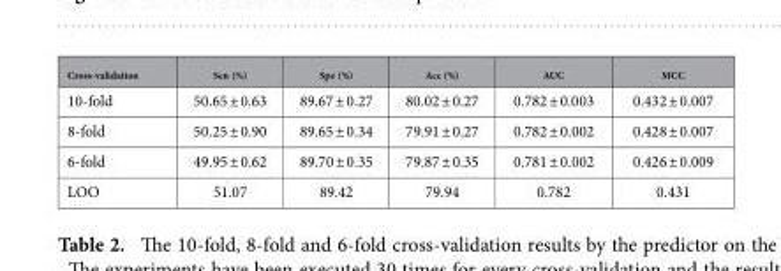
<table><thead><tr><td><sub>Cross-validation</sub></td><td><sub>Sen (%)</sub></td><td><sub>Spe (%)</sub></td><td><sub>Acc (%)</sub></td><td><sub>AUC</sub></td><td><sub>MCC</sub></td></tr></thead><tbody><tr><td>10-fold</td><td>50.65 ± 0.63</td><td>89.67 ± 0.27</td><td>80.02 ± 0.27</td><td>0.782 ± 0.003</td><td>0.432 ± 0.007</td></tr><tr><td>8-fold</td><td>50.25 ± 0.90</td><td>89.65 ± 0.34</td><td>79.91 ± 0.27</td><td>0.782 ± 0.002</td><td>0.428 ± 0.007</td></tr><tr><td>6-fold</td><td>49.95 ± 0.62</td><td>89.70 ± 0.35</td><td>79.87 ± 0.35</td><td>0.781 ± 0.002</td><td>0.426 ± 0.009</td></tr><tr><td>LOO</td><td>51.07</td><td>89.42</td><td>79.94</td><td>0.782</td><td>0.431</td></tr></tbody></table>